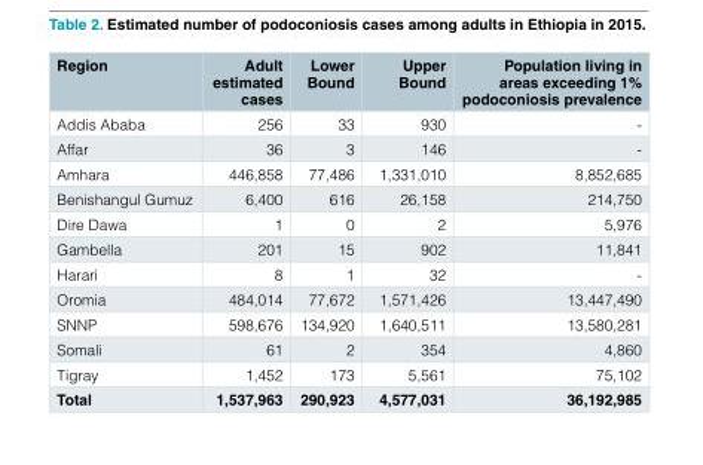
<table><thead><tr><td>Region</td><td>Adult estimated cases</td><td>Lower Bound</td><td>Upper Bound</td><td>Population living in areas exceeding 1% podoconiosis prevalence</td></tr></thead><tbody><tr><td>Addis Ababa</td><td>256</td><td>33</td><td>930</td><td>-</td></tr><tr><td>Affar</td><td>36</td><td>3</td><td>146</td><td>-</td></tr><tr><td>Amhara</td><td>446,858</td><td>77,486</td><td>1,331,010</td><td>8,852,685</td></tr><tr><td>Benishangul Gumuz</td><td>6,400</td><td>616</td><td>26,158</td><td>214,750</td></tr><tr><td>Dire Dawa</td><td>1</td><td>0</td><td>2</td><td>5,976</td></tr><tr><td>Gambella</td><td>201</td><td>15</td><td>902</td><td>11,841</td></tr><tr><td>Harari</td><td>8</td><td>1</td><td>32</td><td>-</td></tr><tr><td>Oromia</td><td>484,014</td><td>77,672</td><td>1,571,426</td><td>13,447,490</td></tr><tr><td>SNNP</td><td>598,676</td><td>134,920</td><td>1,640,511</td><td>13,580,281</td></tr><tr><td>Somali</td><td>61</td><td>2</td><td>354</td><td>4,860</td></tr><tr><td>Tigray</td><td>1,452</td><td>173</td><td>5,561</td><td>75,102</td></tr><tr><td>Total</td><td>1,537,963</td><td>290,923</td><td>4,577,031</td><td>36,192,985</td></tr></tbody></table>